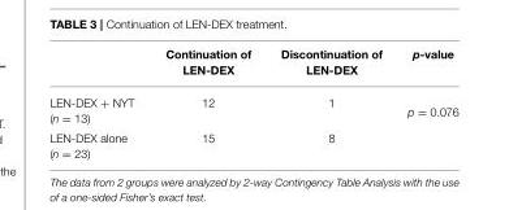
<table><thead><tr><td></td><td>Continuation of LEN-DEX</td><td>Discontinuation of LEN-DEX</td><td>p-value</td></tr></thead><tbody><tr><td>LEN-DEX + NYT (n = 13)</td><td>12</td><td>1</td><td>p = 0.076</td></tr><tr><td>LEN-DEX alone (n = 23)</td><td>15</td><td>8</td><td></td></tr></tbody></table>